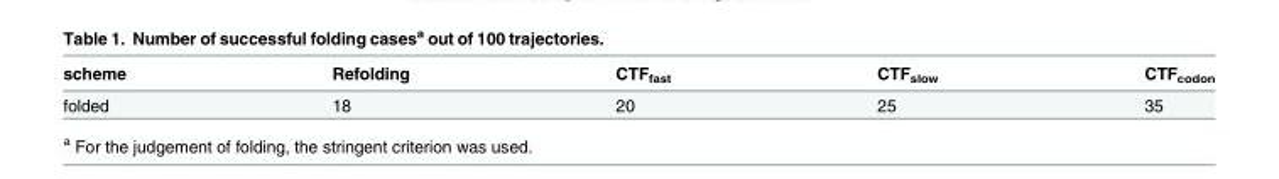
<table><thead><tr><td>scheme</td><td>Refolding</td><td>CTF<sub>fast</sub></td><td>CTF<sub>slow</sub></td><td>CTF<sub>codon</sub></td></tr></thead><tbody><tr><td>folded</td><td>18</td><td>20</td><td>25</td><td>35</td></tr></tbody></table>